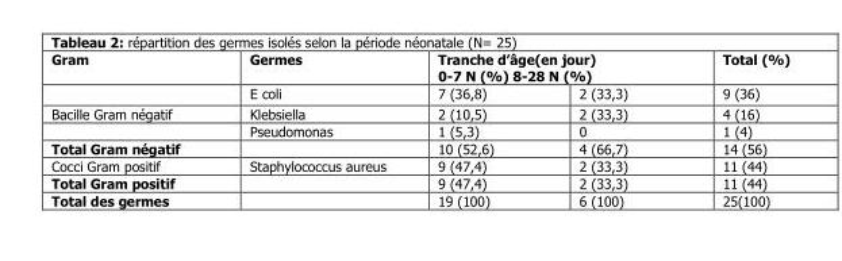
<table><thead><tr><td rowspan="2">Gram</td><td rowspan="2">Germes E coli</td><td colspan="2">Tranche d’âge(en jour) 0-7 N (%) 8-28 N (%)</td><td rowspan="2">Total (%) 9 (36)</td></tr><tr><td>7 (36,8)</td><td>2 (33,3)</td></tr></thead><tbody><tr><td rowspan="2">Bacille Gram négatif</td><td>Klebsiella</td><td>2 (10,5)</td><td>2 (33,3)</td><td>4 (16)</td></tr><tr><td>Pseudomonas</td><td>1 (5,3)</td><td>0</td><td>1 (4)</td></tr><tr><td>Total Gram négatif</td><td></td><td>10 (52,6)</td><td>4 (66,7)</td><td>14 (56)</td></tr><tr><td>Cocci Gram positif</td><td>Staphylococcus aureus</td><td>9 (47,4)</td><td>2 (33,3)</td><td>11 (44)</td></tr><tr><td>Total Gram positif</td><td></td><td>9 (47,4)</td><td>2 (33,3)</td><td>11 (44)</td></tr><tr><td>Total des germes</td><td></td><td>19 (100)</td><td>6 (100)</td><td>25(100)</td></tr></tbody></table>